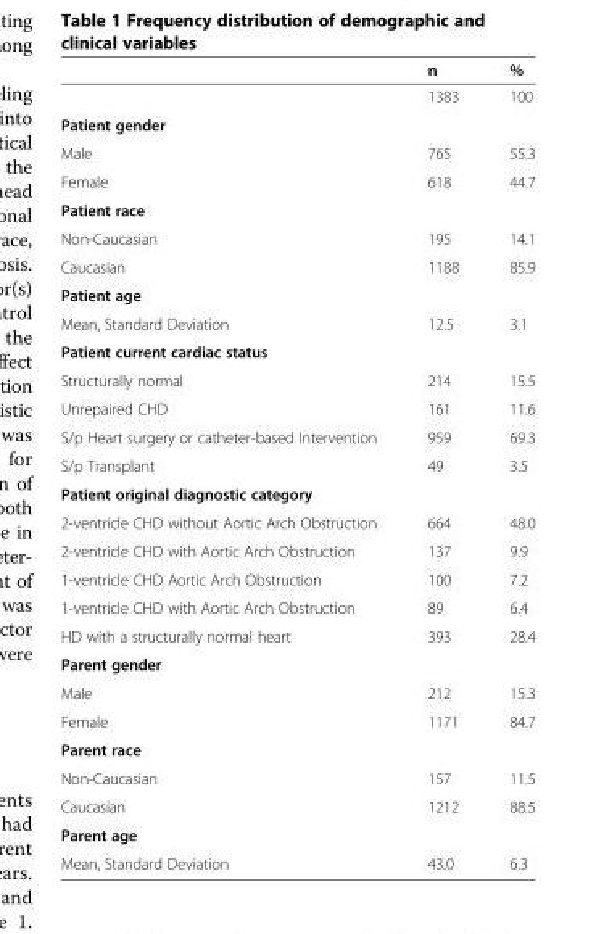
<table><thead><tr><td></td><td>n</td><td>%</td></tr></thead><tbody><tr><td></td><td>1383</td><td>100</td></tr><tr><td colspan="3">Patient gender</td></tr><tr><td>Male</td><td>765</td><td>55.3</td></tr><tr><td>Female</td><td>618</td><td>44.7</td></tr><tr><td colspan="3">Patient race</td></tr><tr><td>Non-Caucasian</td><td>195</td><td>14.1</td></tr><tr><td>Caucasian</td><td>1188</td><td>85.9</td></tr><tr><td colspan="3">Patient age</td></tr><tr><td>Mean, Standard Deviation</td><td>12.5</td><td>3.1</td></tr><tr><td colspan="3">Patient current cardiac status</td></tr><tr><td>Structurally normal</td><td>214</td><td>15.5</td></tr><tr><td>Unrepaired CHD</td><td>161</td><td>11.6</td></tr><tr><td>S/p Heart surgery or catheter-based Intervention</td><td>959</td><td>69.3</td></tr><tr><td>S/p Transplant</td><td>49</td><td>3.5</td></tr><tr><td colspan="3">Patient original diagnostic category</td></tr><tr><td>2-ventricle CHD without Aortic Arch Obstruction</td><td>664</td><td>48.0</td></tr><tr><td>2-ventricle CHD with Aortic Arch Obstruction</td><td>137</td><td>9.9</td></tr><tr><td>1-ventricle CHD Aortic Arch Obstruction</td><td>100</td><td>7.2</td></tr><tr><td>1-ventricle CHD with Aortic Arch Obstruction</td><td>89</td><td>6.4</td></tr><tr><td>HD with a structurally normal heart</td><td>393</td><td>28.4</td></tr><tr><td colspan="3">Parent gender</td></tr><tr><td>Male</td><td>212</td><td>15.3</td></tr><tr><td>Female</td><td>1171</td><td>84.7</td></tr><tr><td colspan="3">Parent race</td></tr><tr><td>Non-Caucasian</td><td>157</td><td>11.5</td></tr><tr><td>Caucasian</td><td>1212</td><td>88.5</td></tr><tr><td colspan="3">Parent age</td></tr><tr><td>Mean, Standard Deviation</td><td>43.0</td><td>6.3</td></tr></tbody></table>